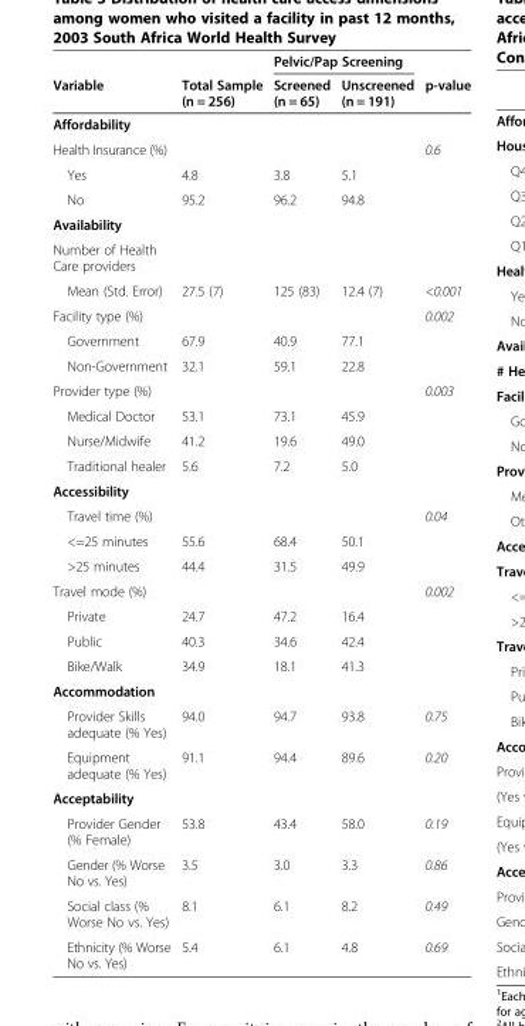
<table><thead><tr><td rowspan="2">Variable</td><td rowspan="2">Total Sample (n = 256)</td><td colspan="2">Pelvic/Pap Screening</td><td rowspan="2">p-value</td></tr><tr><td>Screened (n = 65)</td><td>Unscreened (n = 191)</td></tr></thead><tbody><tr><td colspan="5">Affordability</td></tr><tr><td>Health Insurance (%)</td><td></td><td></td><td></td><td>0.6</td></tr><tr><td>Yes</td><td>4.8</td><td>3.8</td><td>5.1</td><td></td></tr><tr><td>No</td><td>95.2</td><td>96.2</td><td>94.8</td><td></td></tr><tr><td colspan="5">Availability</td></tr><tr><td colspan="5">Number of Health Care providers</td></tr><tr><td>Mean (Std. Error)</td><td>27.5 (7)</td><td>125 (83)</td><td>12.4 (7)</td><td>&lt;0.001</td></tr><tr><td>Facility type (%)</td><td></td><td></td><td></td><td>0.002</td></tr><tr><td>Government</td><td>67.9</td><td>40.9</td><td>77.1</td><td></td></tr><tr><td>Non-Government</td><td>32.1</td><td>59.1</td><td>22.8</td><td></td></tr><tr><td>Provider type (%)</td><td></td><td></td><td></td><td>0.003</td></tr><tr><td>Medical Doctor</td><td>53.1</td><td>73.1</td><td>45.9</td><td></td></tr><tr><td>Nurse/Midwife</td><td>41.2</td><td>19.6</td><td>49.0</td><td></td></tr><tr><td>Traditional healer</td><td>5.6</td><td>7.2</td><td>5.0</td><td></td></tr><tr><td colspan="5">Accessibility</td></tr><tr><td>Travel time (%)</td><td></td><td></td><td></td><td>0.04</td></tr><tr><td>&lt;=25 minutes</td><td>55.6</td><td>68.4</td><td>50.1</td><td></td></tr><tr><td>&gt;25 minutes</td><td>44.4</td><td>31.5</td><td>49.9</td><td></td></tr><tr><td>Travel mode (%)</td><td></td><td></td><td></td><td>0.002</td></tr><tr><td>Private</td><td>24.7</td><td>47.2</td><td>16.4</td><td></td></tr><tr><td>Public</td><td>40.3</td><td>34.6</td><td>42.4</td><td></td></tr><tr><td>Bike/Walk</td><td>34.9</td><td>18.1</td><td>41.3</td><td></td></tr><tr><td colspan="5">Accommodation</td></tr><tr><td>Provider Skills adequate (% Yes)</td><td>94.0</td><td>94.7</td><td>93.8</td><td>0.75</td></tr><tr><td>Equipment adequate (% Yes)</td><td>91.1</td><td>94.4</td><td>89.6</td><td>0.20</td></tr><tr><td colspan="5">Acceptability</td></tr><tr><td>Provider Gender (% Female)</td><td>53.8</td><td>43.4</td><td>58.0</td><td>0.19</td></tr><tr><td>Gender (% Worse No vs. Yes)</td><td>3.5</td><td>3.0</td><td>3.3</td><td>0.86</td></tr><tr><td>Social class (% Worse No vs. Yes)</td><td>8.1</td><td>6.1</td><td>8.2</td><td>0.49</td></tr><tr><td>Ethnicity (% Worse No vs. Yes)</td><td>5.4</td><td>6.1</td><td>4.8</td><td>0.69</td></tr></tbody></table>